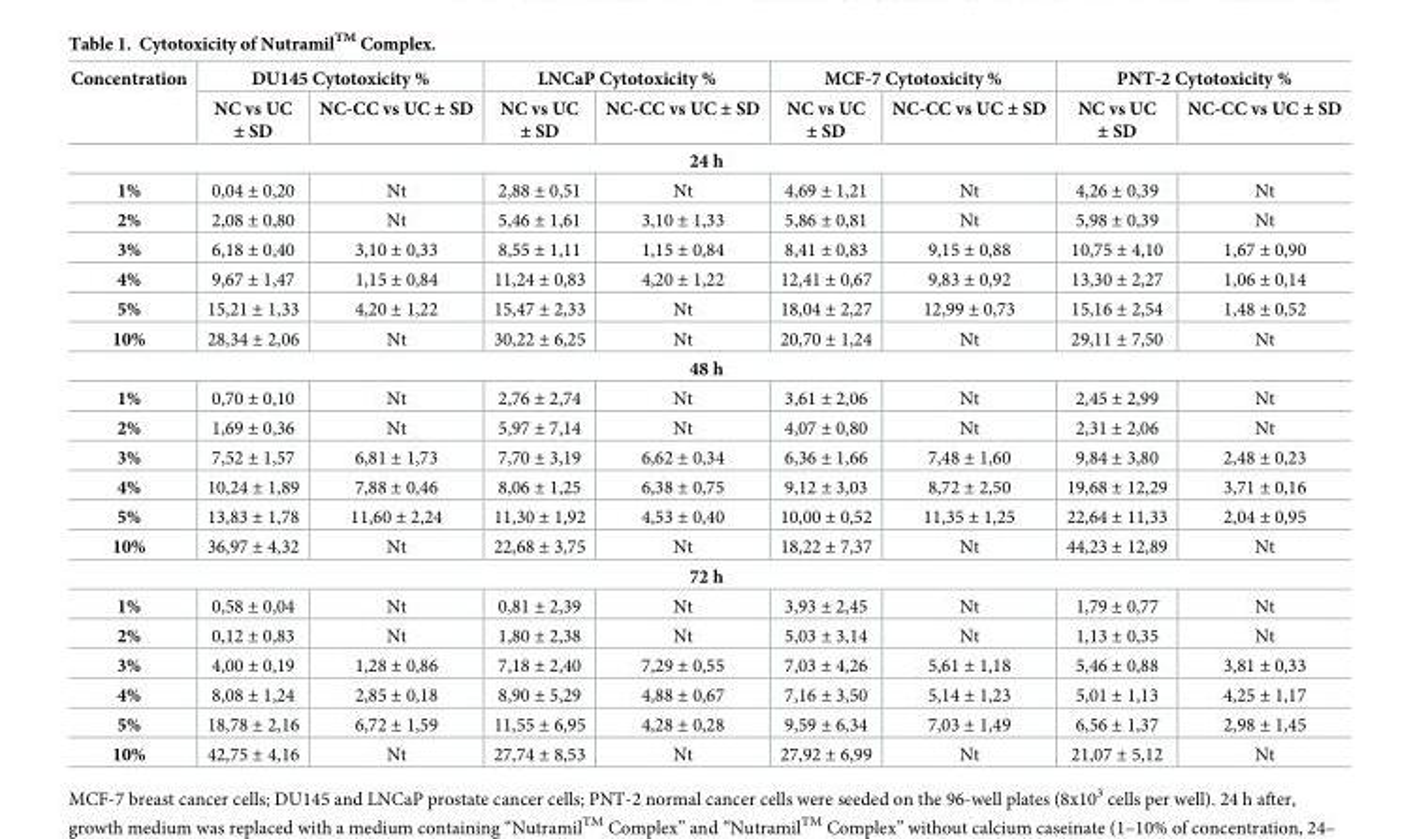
<table><thead><tr><td rowspan="2">Concentration</td><td colspan="2">DU145 Cytotoxicity %</td><td colspan="2">LNCaP Cytotoxicity %</td><td colspan="2">MCF-7 Cytotoxicity %</td><td colspan="2">PNT-2 Cytotoxicity %</td></tr><tr><td>NC vs UC ± SD</td><td>NC-CC vs UC ± SD</td><td>NC vs UC ± SD</td><td>NC-CC vs UC ± SD</td><td>NC vs UC ± SD</td><td>NC-CC vs UC ± SD</td><td>NC vs UC ± SD</td><td>NC-CC vs UC ± SD</td></tr></thead><tbody><tr><td colspan="9">24 h</td></tr><tr><td>1%</td><td>0,04 ± 0,20</td><td>Nt</td><td>2,88 ± 0,51</td><td>Nt</td><td>4,69 ± 1,21</td><td>Nt</td><td>4,26 ± 0,39</td><td>Nt</td></tr><tr><td>2%</td><td>2,08 ± 0,80</td><td>Nt</td><td>5,46 ± 1,61</td><td>3,10 ± 1,33</td><td>5,86 ± 0,81</td><td>Nt</td><td>5,98 ± 0,39</td><td>Nt</td></tr><tr><td>3%</td><td>6,18 ± 0,40</td><td>3,10 ± 0,33</td><td>8,55 ± 1,11</td><td>1,15 ± 0,84</td><td>8,41 ± 0,83</td><td>9,15 ± 0,88</td><td>10,75 ± 4,10</td><td>1,67 ± 0,90</td></tr><tr><td>4%</td><td>9,67 ± 1,47</td><td>1,15 ± 0,84</td><td>11,24 ± 0,83</td><td>4,20 ± 1,22</td><td>12,41 ± 0,67</td><td>9,83 ± 0,92</td><td>13,30 ± 2,27</td><td>1,06 ± 0,14</td></tr><tr><td>5%</td><td>15,21 ± 1,33</td><td>4,20 ± 1,22</td><td>15,47 ± 2,33</td><td>Nt</td><td>18,04 ± 2,27</td><td>12,99 ± 0,73</td><td>15,16 ± 2,54</td><td>1,48 ± 0,52</td></tr><tr><td>10%</td><td>28,34 ± 2,06</td><td>Nt</td><td>30,22 ± 6,25</td><td>Nt</td><td>20,70 ± 1,24</td><td>Nt</td><td>29,11 ± 7,50</td><td>Nt</td></tr><tr><td colspan="9">48 h</td></tr><tr><td>1%</td><td>0,70 ± 0,10</td><td>Nt</td><td>2,76 ± 2,74</td><td>Nt</td><td>3,61 ± 2,06</td><td>Nt</td><td>2,45 ± 2,99</td><td>Nt</td></tr><tr><td>2%</td><td>1,69 ± 0,36</td><td>Nt</td><td>5,97 ± 7,14</td><td>Nt</td><td>4,07 ± 0,80</td><td>Nt</td><td>2,31 ± 2,06</td><td>Nt</td></tr><tr><td>3%</td><td>7,52 ± 1,57</td><td>6,81 ± 1,73</td><td>7,70 ± 3,19</td><td>6,62 ± 0,34</td><td>6,36 ± 1,66</td><td>7,48 ± 1,60</td><td>9,84 ± 3,80</td><td>2,48 ± 0,23</td></tr><tr><td>4%</td><td>10,24 ± 1,89</td><td>7,88 ± 0,46</td><td>8,06 ± 1,25</td><td>6,38 ± 0,75</td><td>9,12 ± 3,03</td><td>8,72 ± 2,50</td><td>19,68 ± 12,29</td><td>3,71 ± 0,16</td></tr><tr><td>5%</td><td>13,83 ± 1,78</td><td>11,60 ± 2,24</td><td>11,30 ± 1,92</td><td>4,53 ± 0,40</td><td>10,00 ± 0,52</td><td>11,35 ± 1,25</td><td>22,64 ± 11,33</td><td>2,04 ± 0,95</td></tr><tr><td>10%</td><td>36,97 ± 4,32</td><td>Nt</td><td>22,68 ± 3,75</td><td>Nt</td><td>18,22 ± 7,37</td><td>Nt</td><td>44,23 ± 12,89</td><td>Nt</td></tr><tr><td colspan="9">72 h</td></tr><tr><td>1%</td><td>0,58 ± 0,04</td><td>Nt</td><td>0,81 ± 2,39</td><td>Nt</td><td>3,93 ± 2,45</td><td>Nt</td><td>1,79 ± 0,77</td><td>Nt</td></tr><tr><td>2%</td><td>0,12 ± 0,83</td><td>Nt</td><td>1,80 ± 2,38</td><td>Nt</td><td>5,03 ± 3,14</td><td>Nt</td><td>1,13 ± 0,35</td><td>Nt</td></tr><tr><td>3%</td><td>4,00 ± 0,19</td><td>1,28 ± 0,86</td><td>7,18 ± 2,40</td><td>7,29 ± 0,55</td><td>7,03 ± 4,26</td><td>5,61 ± 1,18</td><td>5,46 ± 0,88</td><td>3,81 ± 0,33</td></tr><tr><td>4%</td><td>8,08 ± 1,24</td><td>2,85 ± 0,18</td><td>8,90 ± 5,29</td><td>4,88 ± 0,67</td><td>7,16 ± 3,50</td><td>5,14 ± 1,23</td><td>5,01 ± 1,13</td><td>4,25 ± 1,17</td></tr><tr><td>5%</td><td>18,78 ± 2,16</td><td>6,72 ± 1,59</td><td>11,55 ± 6,95</td><td>4,28 ± 0,28</td><td>9,59 ± 6,34</td><td>7,03 ± 1,49</td><td>6,56 ± 1,37</td><td>2,98 ± 1,45</td></tr><tr><td>10%</td><td>42,75 ± 4,16</td><td>Nt</td><td>27,74 ± 8,53</td><td>Nt</td><td>27,92 ± 6,99</td><td>Nt</td><td>21,07 ± 5,12</td><td>Nt</td></tr></tbody></table>